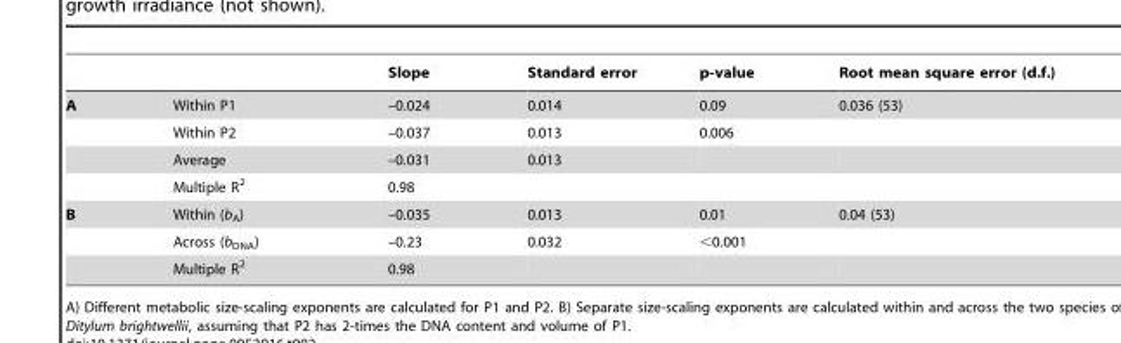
<table><thead><tr><td></td><td></td><td>Slope</td><td>Standard error</td><td>p-value</td><td>Root mean square error (d.f.)</td></tr></thead><tbody><tr><td rowspan="4">A</td><td>Within P1</td><td>–0.024</td><td>0.014</td><td>0.09</td><td>0.036 (53)</td></tr><tr><td>Within P2</td><td>–0.037</td><td>0.013</td><td>0.006</td><td></td></tr><tr><td>Average</td><td>–0.031</td><td>0.013</td><td></td><td></td></tr><tr><td>Multiple R<sup>2</sup></td><td>0.98</td><td></td><td></td><td></td></tr><tr><td rowspan="3">B</td><td>Within (b<sub>A</sub>)</td><td>–0.035</td><td>0.013</td><td>0.01</td><td>0.04 (53)</td></tr><tr><td>Across (b<sub>DNA</sub>)</td><td>–0.23</td><td>0.032</td><td>&lt;0.001</td><td></td></tr><tr><td>Multiple R<sup>2</sup></td><td>0.98</td><td></td><td></td><td></td></tr></tbody></table>